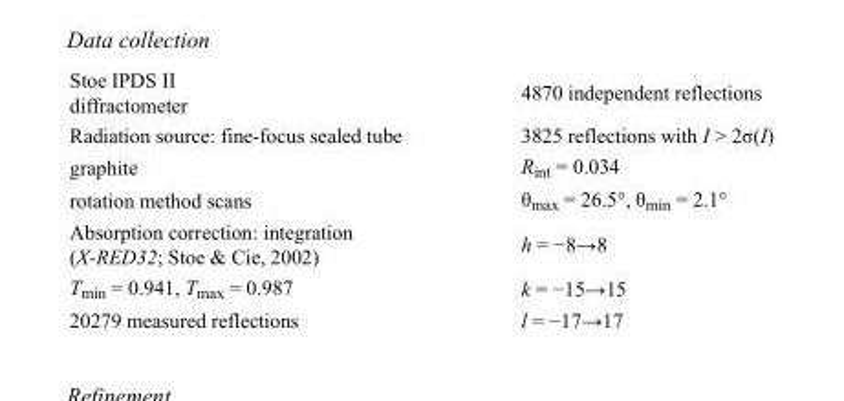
<table><tbody><tr><td>Stoe IPDS II diffractometer</td><td>4870 independent reflections</td></tr><tr><td>Radiation source: fine-focus sealed tube</td><td>3825 reflections with I &gt; 2σ(I)</td></tr><tr><td>graphite</td><td>R<sub>int</sub> = 0.034</td></tr><tr><td>rotation method scans</td><td>θ<sub>max</sub> = 26.5°, θ<sub>min</sub> = 2.1°</td></tr><tr><td>Absorption correction: integration (X-RED32; Stoe &amp; Cie, 2002)</td><td>h = −8→8</td></tr><tr><td>T<sub>min</sub> = 0.941, T<sub>max</sub> = 0.987</td><td>k = −15→15</td></tr><tr><td>20279 measured reflections</td><td>l = −17→17</td></tr></tbody></table>